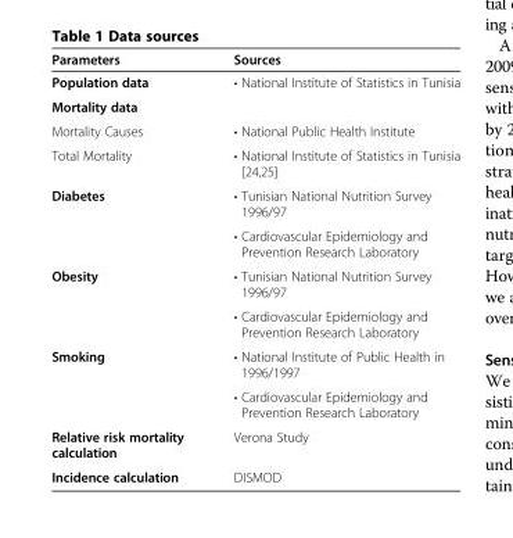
<table><thead><tr><td>Parameters</td><td>Sources</td></tr></thead><tbody><tr><td>Population data</td><td>• National Institute of Statistics in Tunisia</td></tr><tr><td colspan="2">Mortality data</td></tr><tr><td>Mortality Causes</td><td>• National Public Health Institute</td></tr><tr><td>Total Mortality</td><td>• National Institute of Statistics in Tunisia [24,25]</td></tr><tr><td rowspan="2">Diabetes</td><td>• Tunisian National Nutrition Survey 1996/97</td></tr><tr><td>• Cardiovascular Epidemiology and Prevention Research Laboratory</td></tr><tr><td rowspan="2">Obesity</td><td>• Tunisian National Nutrition Survey 1996/97</td></tr><tr><td>• Cardiovascular Epidemiology and Prevention Research Laboratory</td></tr><tr><td rowspan="2">Smoking</td><td>• National Institute of Public Health in 1996/1997</td></tr><tr><td>• Cardiovascular Epidemiology and Prevention Research Laboratory</td></tr><tr><td>Relative risk mortality calculation</td><td>Verona Study</td></tr><tr><td>Incidence calculation</td><td>DISMOD</td></tr></tbody></table>